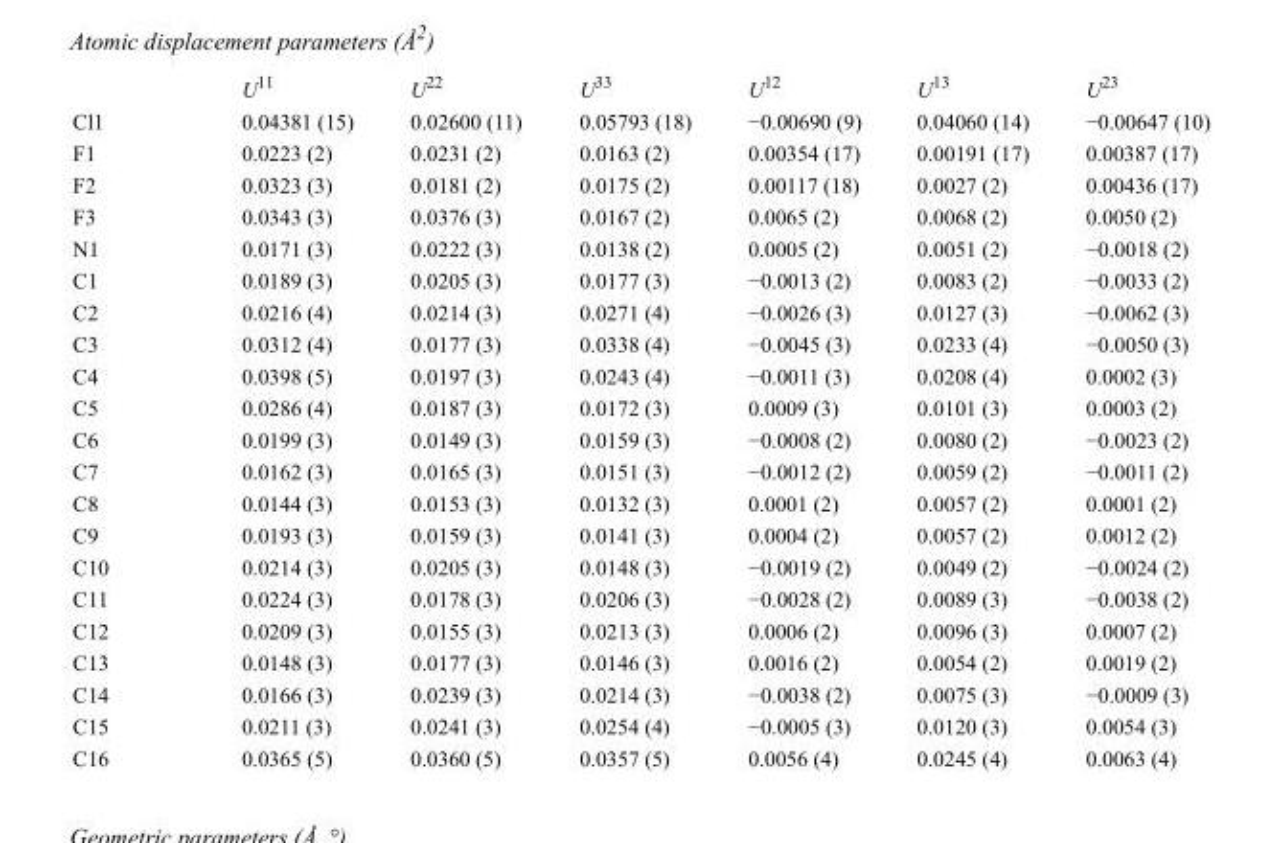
<table><thead><tr><td></td><td>U<sup>11</sup></td><td>U<sup>22</sup></td><td>U<sup>33</sup></td><td>U<sup>12</sup></td><td>U<sup>13</sup></td><td>U<sup>23</sup></td></tr></thead><tbody><tr><td>Cl1</td><td>0.04381 (15)</td><td>0.02600 (11)</td><td>0.05793 (18)</td><td>−0.00690 (9)</td><td>0.04060 (14)</td><td>−0.00647 (10)</td></tr><tr><td>F1</td><td>0.0223 (2)</td><td>0.0231 (2)</td><td>0.0163 (2)</td><td>0.00354 (17)</td><td>0.00191 (17)</td><td>0.00387 (17)</td></tr><tr><td>F2</td><td>0.0323 (3)</td><td>0.0181 (2)</td><td>0.0175 (2)</td><td>0.00117 (18)</td><td>0.0027 (2)</td><td>0.00436 (17)</td></tr><tr><td>F3</td><td>0.0343 (3)</td><td>0.0376 (3)</td><td>0.0167 (2)</td><td>0.0065 (2)</td><td>0.0068 (2)</td><td>0.0050 (2)</td></tr><tr><td>N1</td><td>0.0171 (3)</td><td>0.0222 (3)</td><td>0.0138 (2)</td><td>0.0005 (2)</td><td>0.0051 (2)</td><td>−0.0018 (2)</td></tr><tr><td>C1</td><td>0.0189 (3)</td><td>0.0205 (3)</td><td>0.0177 (3)</td><td>−0.0013 (2)</td><td>0.0083 (2)</td><td>−0.0033 (2)</td></tr><tr><td>C2</td><td>0.0216 (4)</td><td>0.0214 (3)</td><td>0.0271 (4)</td><td>−0.0026 (3)</td><td>0.0127 (3)</td><td>−0.0062 (3)</td></tr><tr><td>C3</td><td>0.0312 (4)</td><td>0.0177 (3)</td><td>0.0338 (4)</td><td>−0.0045 (3)</td><td>0.0233 (4)</td><td>−0.0050 (3)</td></tr><tr><td>C4</td><td>0.0398 (5)</td><td>0.0197 (3)</td><td>0.0243 (4)</td><td>−0.0011 (3)</td><td>0.0208 (4)</td><td>0.0002 (3)</td></tr><tr><td>C5</td><td>0.0286 (4)</td><td>0.0187 (3)</td><td>0.0172 (3)</td><td>0.0009 (3)</td><td>0.0101 (3)</td><td>0.0003 (2)</td></tr><tr><td>C6</td><td>0.0199 (3)</td><td>0.0149 (3)</td><td>0.0159 (3)</td><td>−0.0008 (2)</td><td>0.0080 (2)</td><td>−0.0023 (2)</td></tr><tr><td>C7</td><td>0.0162 (3)</td><td>0.0165 (3)</td><td>0.0151 (3)</td><td>−0.0012 (2)</td><td>0.0059 (2)</td><td>−0.0011 (2)</td></tr><tr><td>C8</td><td>0.0144 (3)</td><td>0.0153 (3)</td><td>0.0132 (3)</td><td>0.0001 (2)</td><td>0.0057 (2)</td><td>0.0001 (2)</td></tr><tr><td>C9</td><td>0.0193 (3)</td><td>0.0159 (3)</td><td>0.0141 (3)</td><td>0.0004 (2)</td><td>0.0057 (2)</td><td>0.0012 (2)</td></tr><tr><td>C10</td><td>0.0214 (3)</td><td>0.0205 (3)</td><td>0.0148 (3)</td><td>−0.0019 (2)</td><td>0.0049 (2)</td><td>−0.0024 (2)</td></tr><tr><td>C11</td><td>0.0224 (3)</td><td>0.0178 (3)</td><td>0.0206 (3)</td><td>−0.0028 (2)</td><td>0.0089 (3)</td><td>−0.0038 (2)</td></tr><tr><td>C12</td><td>0.0209 (3)</td><td>0.0155 (3)</td><td>0.0213 (3)</td><td>0.0006 (2)</td><td>0.0096 (3)</td><td>0.0007 (2)</td></tr><tr><td>C13</td><td>0.0148 (3)</td><td>0.0177 (3)</td><td>0.0146 (3)</td><td>0.0016 (2)</td><td>0.0054 (2)</td><td>0.0019 (2)</td></tr><tr><td>C14</td><td>0.0166 (3)</td><td>0.0239 (3)</td><td>0.0214 (3)</td><td>−0.0038 (2)</td><td>0.0075 (3)</td><td>−0.0009 (3)</td></tr><tr><td>C15</td><td>0.0211 (3)</td><td>0.0241 (3)</td><td>0.0254 (4)</td><td>−0.0005 (3)</td><td>0.0120 (3)</td><td>0.0054 (3)</td></tr><tr><td>C16</td><td>0.0365 (5)</td><td>0.0360 (5)</td><td>0.0357 (5)</td><td>0.0056 (4)</td><td>0.0245 (4)</td><td>0.0063 (4)</td></tr></tbody></table>